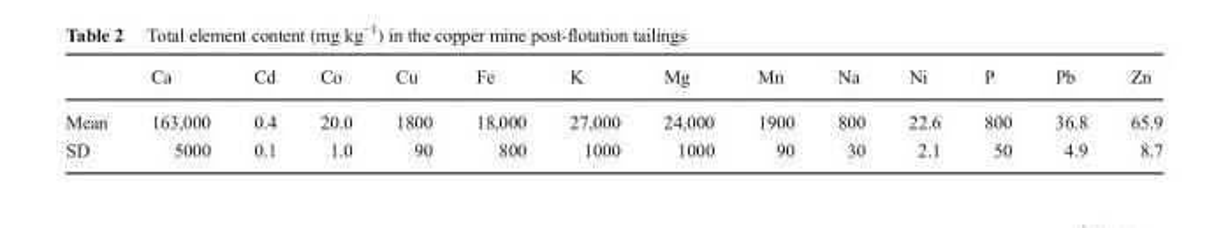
<table><thead><tr><td></td><td>Ca</td><td>Cd</td><td>Co</td><td>Cu</td><td>Fe</td><td>K</td><td>Mg</td><td>Mn</td><td>Na</td><td>Ni</td><td>P</td><td>Pb</td><td>Zn</td></tr></thead><tbody><tr><td>Mean</td><td>163,000</td><td>0.4</td><td>20.0</td><td>1800</td><td>18,000</td><td>27,000</td><td>24,000</td><td>1900</td><td>800</td><td>22.6</td><td>800</td><td>36.8</td><td>65.9</td></tr><tr><td>SD</td><td>5000</td><td>0.1</td><td>1.0</td><td>90</td><td>800</td><td>1000</td><td>1000</td><td>90</td><td>30</td><td>2.1</td><td>50</td><td>4.9</td><td>8.7</td></tr></tbody></table>